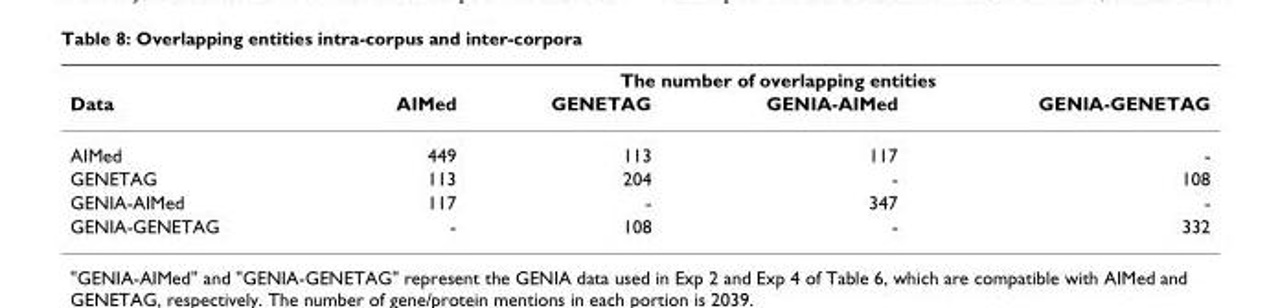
<table><thead><tr><td rowspan="2">Data</td><td colspan="4">The number of overlapping entities</td></tr><tr><td>AIMed</td><td>GENETAG</td><td>GENIA-AIMed</td><td>GENIA-GENETAG</td></tr></thead><tbody><tr><td>AIMed</td><td>449</td><td>113</td><td>117</td><td>-</td></tr><tr><td>GENETAG</td><td>113</td><td>204</td><td>-</td><td>108</td></tr><tr><td>GENIA-AIMed</td><td>117</td><td>-</td><td>347</td><td>-</td></tr><tr><td>GENIA-GENETAG</td><td>-</td><td>108</td><td>-</td><td>332</td></tr></tbody></table>